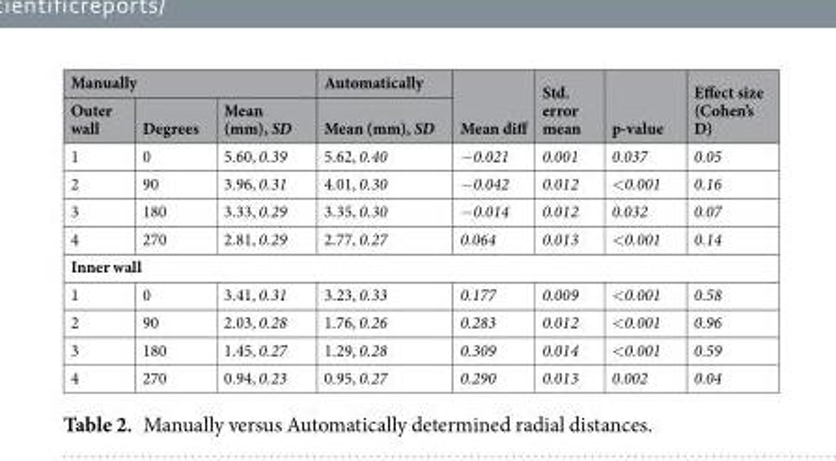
<table><thead><tr><td colspan="3">Manually</td><td rowspan="2">Automatically Mean (mm), SD</td><td rowspan="2">Mean diff</td><td rowspan="2">Std. error mean</td><td rowspan="2">p-value</td><td rowspan="2">Effect size (Cohen’s D)</td></tr><tr><td>Outer wall</td><td>Degrees</td><td>Mean (mm), SD</td></tr></thead><tbody><tr><td>1</td><td>0</td><td>5.60, 0.39</td><td>5.62, 0.40</td><td>−0.021</td><td>0.001</td><td>0.037</td><td>0.05</td></tr><tr><td>2</td><td>90</td><td>3.96, 0.31</td><td>4.01, 0.30</td><td>−0.042</td><td>0.012</td><td>&lt;0.001</td><td>0.16</td></tr><tr><td>3</td><td>180</td><td>3.33, 0.29</td><td>3.35, 0.30</td><td>−0.014</td><td>0.012</td><td>0.032</td><td>0.07</td></tr><tr><td>4</td><td>270</td><td>2.81, 0.29</td><td>2.77, 0.27</td><td>0.064</td><td>0.013</td><td>&lt;0.001</td><td>0.14</td></tr><tr><td colspan="8">Inner wall</td></tr><tr><td>1</td><td>0</td><td>3.41, 0.31</td><td>3.23, 0.33</td><td>0.177</td><td>0.009</td><td>&lt;0.001</td><td>0.58</td></tr><tr><td>2</td><td>90</td><td>2.03, 0.28</td><td>1.76, 0.26</td><td>0.283</td><td>0.012</td><td>&lt;0.001</td><td>0.96</td></tr><tr><td>3</td><td>180</td><td>1.45, 0.27</td><td>1.29, 0.28</td><td>0.309</td><td>0.014</td><td>&lt;0.001</td><td>0.59</td></tr><tr><td>4</td><td>270</td><td>0.94, 0.23</td><td>0.95, 0.27</td><td>0.290</td><td>0.013</td><td>0.002</td><td>0.04</td></tr></tbody></table>